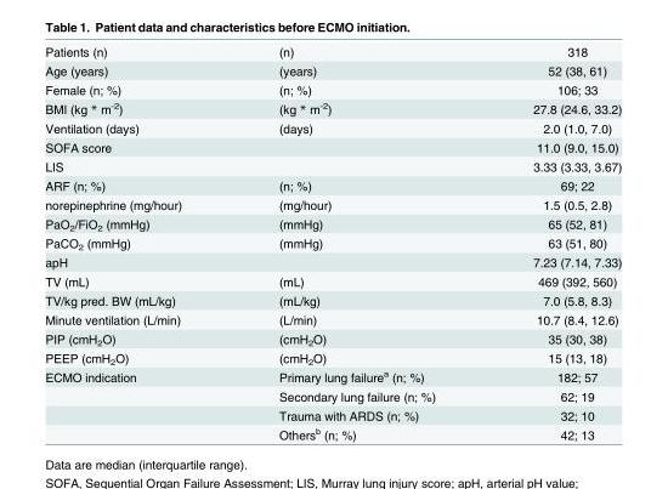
<table><tbody><tr><td>Patients (n)</td><td>(n)</td><td>318</td></tr><tr><td>Age (years)</td><td>(years)</td><td>52 (38, 61)</td></tr><tr><td>Female (n; %)</td><td>(n; %)</td><td>106; 33</td></tr><tr><td>BMI (kg * m<sup>-2</sup>)</td><td>(kg * m<sup>-2</sup>)</td><td>27.8 (24.6, 33.2)</td></tr><tr><td>Ventilation (days)</td><td>(days)</td><td>2.0 (1.0, 7.0)</td></tr><tr><td>SOFA score</td><td></td><td>11.0 (9.0, 15.0)</td></tr><tr><td>LIS</td><td></td><td>3.33 (3.33, 3.67)</td></tr><tr><td>ARF (n; %)</td><td>(n; %)</td><td>69; 22</td></tr><tr><td>norepinephrine (mg/hour)</td><td>(mg/hour)</td><td>1.5 (0.5, 2.8)</td></tr><tr><td>PaO<sub>2</sub>/FiO<sub>2</sub> (mmHg)</td><td>(mmHg)</td><td>65 (52, 81)</td></tr><tr><td>PaCO<sub>2</sub> (mmHg)</td><td>(mmHg)</td><td>63 (51, 80)</td></tr><tr><td>apH</td><td></td><td>7.23 (7.14, 7.33)</td></tr><tr><td>TV (mL)</td><td>(mL)</td><td>469 (392, 560)</td></tr><tr><td>TV/kg pred. BW (mL/kg)</td><td>(mL/kg)</td><td>7.0 (5.8, 8.3)</td></tr><tr><td>Minute ventilation (L/min)</td><td>(L/min)</td><td>10.7 (8.4, 12.6)</td></tr><tr><td>PIP (cmH<sub>2</sub>O)</td><td>(cmH<sub>2</sub>O)</td><td>35 (30, 38)</td></tr><tr><td>PEEP (cmH<sub>2</sub>O)</td><td>(cmH<sub>2</sub>O)</td><td>15 (13, 18)</td></tr><tr><td rowspan="4">ECMO indication</td><td>Primary lung failure<sup>a</sup> (n; %)</td><td>182; 57</td></tr><tr><td>Secondary lung failure (n; %)</td><td>62; 19</td></tr><tr><td>Trauma with ARDS (n; %)</td><td>32; 10</td></tr><tr><td>Others<sup>b</sup> (n; %)</td><td>42; 13</td></tr></tbody></table>